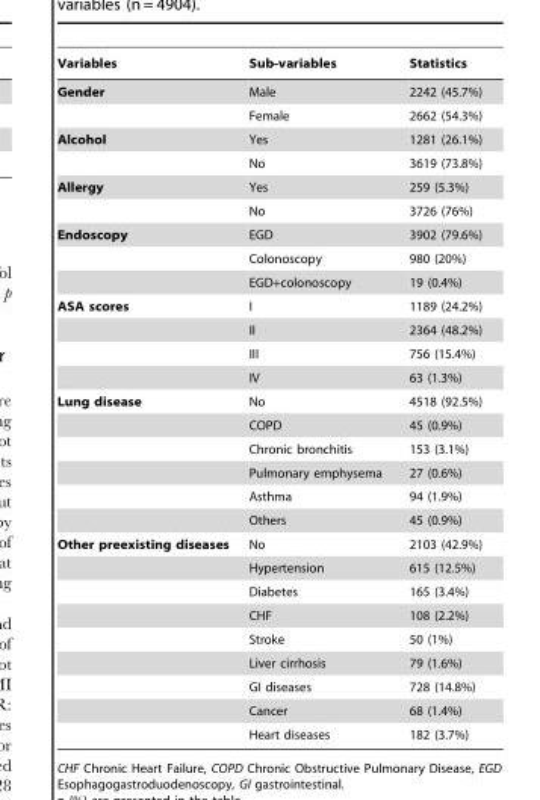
<table><thead><tr><td>Variables</td><td>Sub-variables</td><td>Statistics</td></tr></thead><tbody><tr><td rowspan="2">Gender</td><td>Male</td><td>2242 (45.7%)</td></tr><tr><td>Female</td><td>2662 (54.3%)</td></tr><tr><td rowspan="2">Alcohol</td><td>Yes</td><td>1281 (26.1%)</td></tr><tr><td>No</td><td>3619 (73.8%)</td></tr><tr><td rowspan="2">Allergy</td><td>Yes</td><td>259 (5.3%)</td></tr><tr><td>No</td><td>3726 (76%)</td></tr><tr><td rowspan="3">Endoscopy</td><td>EGD</td><td>3902 (79.6%)</td></tr><tr><td>Colonoscopy</td><td>980 (20%)</td></tr><tr><td>EGD+colonoscopy</td><td>19 (0.4%)</td></tr><tr><td rowspan="4">ASA scores</td><td>I</td><td>1189 (24.2%)</td></tr><tr><td>II</td><td>2364 (48.2%)</td></tr><tr><td>III</td><td>756 (15.4%)</td></tr><tr><td>IV</td><td>63 (1.3%)</td></tr><tr><td rowspan="6">Lung disease</td><td>No</td><td>4518 (92.5%)</td></tr><tr><td>COPD</td><td>45 (0.9%)</td></tr><tr><td>Chronic bronchitis</td><td>153 (3.1%)</td></tr><tr><td>Pulmonary emphysema</td><td>27 (0.6%)</td></tr><tr><td>Asthma</td><td>94 (1.9%)</td></tr><tr><td>Others</td><td>45 (0.9%)</td></tr><tr><td rowspan="9">Other preexisting diseases</td><td>No</td><td>2103 (42.9%)</td></tr><tr><td>Hypertension</td><td>615 (12.5%)</td></tr><tr><td>Diabetes</td><td>165 (3.4%)</td></tr><tr><td>CHF</td><td>108 (2.2%)</td></tr><tr><td>Stroke</td><td>50 (1%)</td></tr><tr><td>Liver cirrhosis</td><td>79 (1.6%)</td></tr><tr><td>GI diseases</td><td>728 (14.8%)</td></tr><tr><td>Cancer</td><td>68 (1.4%)</td></tr><tr><td>Heart diseases</td><td>182 (3.7%)</td></tr></tbody></table>